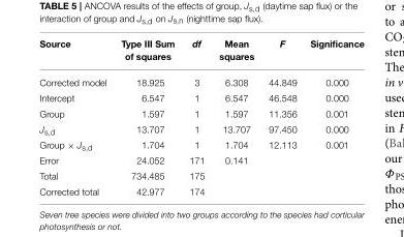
<table><thead><tr><td>Source</td><td>Type III Sum of squares</td><td>df</td><td>Mean squares</td><td>F</td><td>Significance</td></tr></thead><tbody><tr><td>Corrected model</td><td>18.925</td><td>3</td><td>6.308</td><td>44.849</td><td>0.000</td></tr><tr><td>Intercept</td><td>6.547</td><td>1</td><td>6.547</td><td>46.548</td><td>0.000</td></tr><tr><td>Group</td><td>1.597</td><td>1</td><td>1.597</td><td>11.356</td><td>0.001</td></tr><tr><td>J<sub>s,d</sub></td><td>13.707</td><td>1</td><td>13.707</td><td>97.450</td><td>0.000</td></tr><tr><td>Group × J<sub>s,d</sub></td><td>1.704</td><td>1</td><td>1.704</td><td>12.113</td><td>0.001</td></tr><tr><td>Error</td><td>24.052</td><td>171</td><td>0.141</td><td></td><td></td></tr><tr><td>Total</td><td>734.485</td><td>175</td><td></td><td></td><td></td></tr><tr><td>Corrected total</td><td>42.977</td><td>174</td><td></td><td></td><td></td></tr></tbody></table>